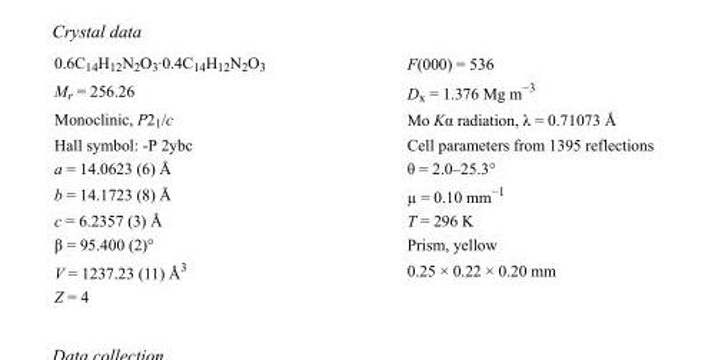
<table><tbody><tr><td>0.6C<sub>14</sub>H<sub>12</sub>N<sub>2</sub>O<sub>3</sub>·0.4C<sub>14</sub>H<sub>12</sub>N<sub>2</sub>O<sub>3</sub></td><td>F(000) = 536</td></tr><tr><td>M<sub>r</sub> = 256.26</td><td>D<sub>x</sub> = 1.376 Mg m<sup>−3</sup></td></tr><tr><td>Monoclinic, P2<sub>1</sub>/c</td><td>Mo Kα radiation, λ = 0.71073 Å</td></tr><tr><td>Hall symbol: -P 2ybc</td><td>Cell parameters from 1395 reflections</td></tr><tr><td>a = 14.0623 (6) Å</td><td>θ = 2.0–25.3°</td></tr><tr><td>b = 14.1723 (8) Å</td><td>µ = 0.10 mm<sup>−1</sup></td></tr><tr><td>c = 6.2357 (3) Å</td><td>T = 296 K</td></tr><tr><td>β = 95.400 (2)°</td><td>Prism, yellow</td></tr><tr><td>V = 1237.23 (11) Å<sup>3</sup></td><td>0.25 × 0.22 × 0.20 mm</td></tr><tr><td>Z = 4</td><td></td></tr></tbody></table>